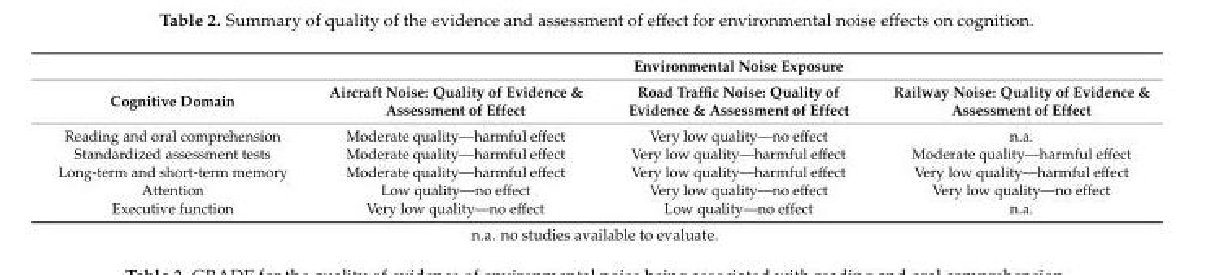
<table><thead><tr><td rowspan="2">Cognitive Domain</td><td colspan="3">Environmental Noise Exposure</td></tr><tr><td>Aircraft Noise: Quality of Evidence &amp; Assessment of Effect</td><td>Road Traffic Noise: Quality of Evidence &amp; Assessment of Effect</td><td>Railway Noise: Quality of Evidence &amp; Assessment of Effect</td></tr></thead><tbody><tr><td>Reading and oral comprehension</td><td>Moderate quality—harmful effect</td><td>Very low quality—no effect</td><td>n.a.</td></tr><tr><td>Standardized assessment tests</td><td>Moderate quality—harmful effect</td><td>Very low quality—harmful effect</td><td>Moderate quality—harmful effect</td></tr><tr><td>Long-term and short-term memory</td><td>Moderate quality—harmful effect</td><td>Very low quality—harmful effect</td><td>Very low quality—harmful effect</td></tr><tr><td>Attention</td><td>Low quality—no effect</td><td>Very low quality—no effect</td><td>Very low quality—no effect</td></tr><tr><td>Executive function</td><td>Very low quality—no effect</td><td>Low quality—no effect</td><td>n.a.</td></tr></tbody></table>